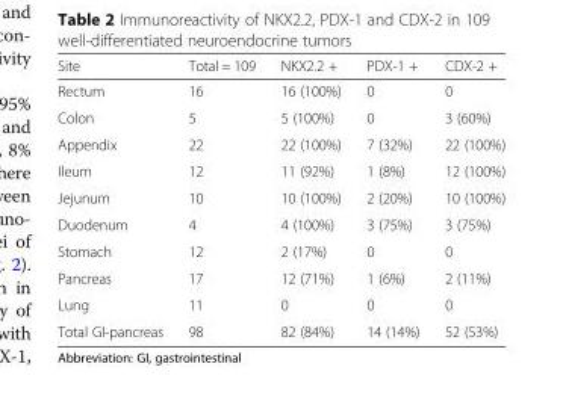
<table><thead><tr><td>Site</td><td>Total = 109</td><td>NKX2.2 +</td><td>PDX-1 +</td><td>CDX-2 +</td></tr></thead><tbody><tr><td>Rectum</td><td>16</td><td>16 (100%)</td><td>0</td><td>0</td></tr><tr><td>Colon</td><td>5</td><td>5 (100%)</td><td>0</td><td>3 (60%)</td></tr><tr><td>Appendix</td><td>22</td><td>22 (100%)</td><td>7 (32%)</td><td>22 (100%)</td></tr><tr><td>Ileum</td><td>12</td><td>11 (92%)</td><td>1 (8%)</td><td>12 (100%)</td></tr><tr><td>Jejunum</td><td>10</td><td>10 (100%)</td><td>2 (20%)</td><td>10 (100%)</td></tr><tr><td>Duodenum</td><td>4</td><td>4 (100%)</td><td>3 (75%)</td><td>3 (75%)</td></tr><tr><td>Stomach</td><td>12</td><td>2 (17%)</td><td>0</td><td>0</td></tr><tr><td>Pancreas</td><td>17</td><td>12 (71%)</td><td>1 (6%)</td><td>2 (11%)</td></tr><tr><td>Lung</td><td>11</td><td>0</td><td>0</td><td>0</td></tr><tr><td>Total GI-pancreas</td><td>98</td><td>82 (84%)</td><td>14 (14%)</td><td>52 (53%)</td></tr></tbody></table>